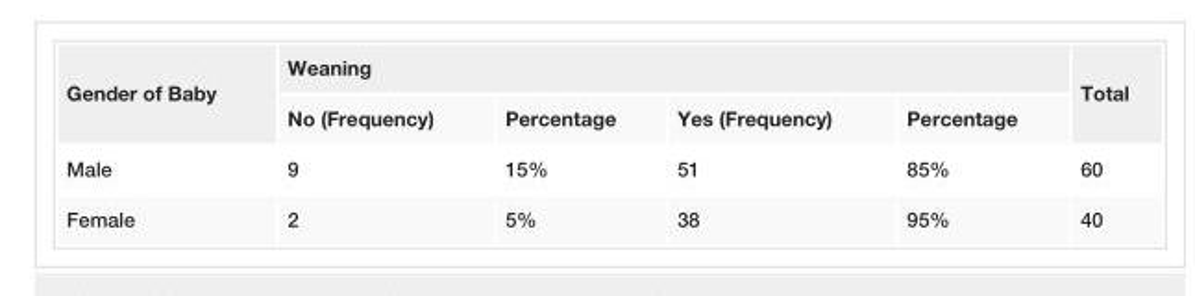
<table><tbody><tr><td rowspan="2">Gender of Baby</td><td colspan="4">Weaning</td><td rowspan="2">Total</td></tr><tr><td>No (Frequency)</td><td>Percentage</td><td>Yes (Frequency)</td><td>Percentage</td></tr><tr><td>Male</td><td>9</td><td>15%</td><td>51</td><td>85%</td><td>60</td></tr><tr><td>Female</td><td>2</td><td>5%</td><td>38</td><td>95%</td><td>40</td></tr></tbody></table>